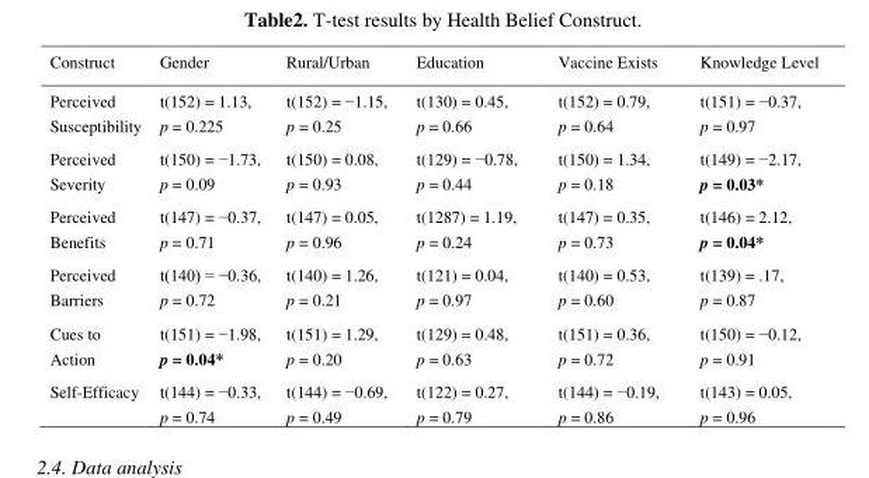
<table><thead><tr><td>Construct</td><td>Gender</td><td>Rural/Urban</td><td>Education</td><td>Vaccine Exists</td><td>Knowledge Level</td></tr></thead><tbody><tr><td>Perceived Susceptibility</td><td>t(152) = 1.13, p = 0.225</td><td>t(152) = −1.15, p = 0.25</td><td>t(130) = 0.45, p = 0.66</td><td>t(152) = 0.79, p = 0.64</td><td>t(151) = −0.37, p = 0.97</td></tr><tr><td>Perceived Severity</td><td>t(150) = −1.73, p = 0.09</td><td>t(150) = 0.08, p = 0.93</td><td>t(129) = −0.78, p = 0.44</td><td>t(150) = 1.34, p = 0.18</td><td>t(149) = −2.17, p = 0.03*</td></tr><tr><td>Perceived Benefits</td><td>t(147) = −0.37, p = 0.71</td><td>t(147) = 0.05, p = 0.96</td><td>t(1287) = 1.19, p = 0.24</td><td>t(147) = 0.35, p = 0.73</td><td>t(146) = 2.12, p = 0.04*</td></tr><tr><td>Perceived Barriers</td><td>t(140) = −0.36, p = 0.72</td><td>t(140) = 1.26, p = 0.21</td><td>t(121) = 0.04, p = 0.97</td><td>t(140) = 0.53, p = 0.60</td><td>t(139) = .17, p = 0.87</td></tr><tr><td>Cues to Action</td><td>t(151) = −1.98, p = 0.04*</td><td>t(151) = 1.29, p = 0.20</td><td>t(129) = 0.48, p = 0.63</td><td>t(151) = 0.36, p = 0.72</td><td>t(150) = −0.12, p = 0.91</td></tr><tr><td>Self-Efficacy</td><td>t(144) = −0.33, p = 0.74</td><td>t(144) = −0.69, p = 0.49</td><td>t(122) = 0.27, p = 0.79</td><td>t(144) = −0.19, p = 0.86</td><td>t(143) = 0.05, p = 0.96</td></tr></tbody></table>